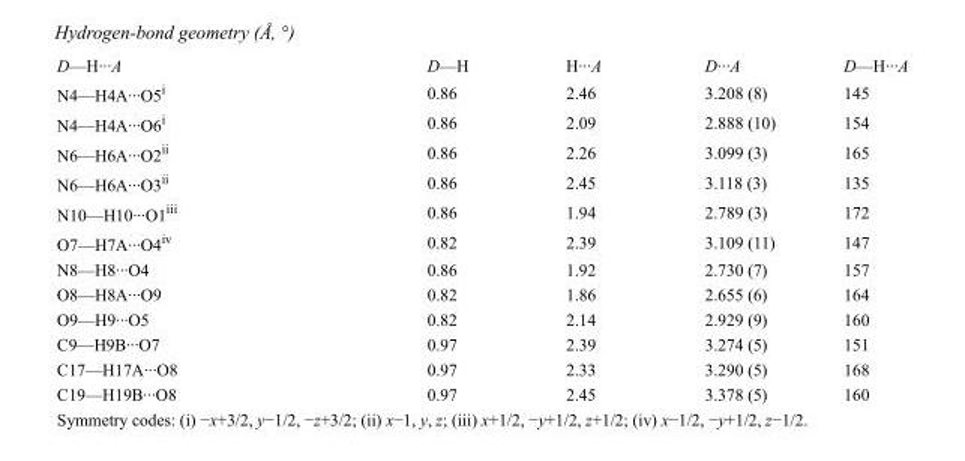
<table><tbody><tr><td>D—H···A</td><td>D—H</td><td>H···A</td><td>D···A</td><td>D—H···A</td></tr><tr><td>N4—H4A···O5<sup>i</sup></td><td>0.86</td><td>2.46</td><td>3.208 (8)</td><td>145</td></tr><tr><td>N4—H4A···O6<sup>i</sup></td><td>0.86</td><td>2.09</td><td>2.888 (10)</td><td>154</td></tr><tr><td>N6—H6A···O2<sup>ii</sup></td><td>0.86</td><td>2.26</td><td>3.099 (3)</td><td>165</td></tr><tr><td>N6—H6A···O3<sup>ii</sup></td><td>0.86</td><td>2.45</td><td>3.118 (3)</td><td>135</td></tr><tr><td>N10—H10···O1<sup>iii</sup></td><td>0.86</td><td>1.94</td><td>2.789 (3)</td><td>172</td></tr><tr><td>O7—H7A···O4<sup>iv</sup></td><td>0.82</td><td>2.39</td><td>3.109 (11)</td><td>147</td></tr><tr><td>N8—H8···O4</td><td>0.86</td><td>1.92</td><td>2.730 (7)</td><td>157</td></tr><tr><td>O8—H8A···O9</td><td>0.82</td><td>1.86</td><td>2.655 (6)</td><td>164</td></tr><tr><td>O9—H9···O5</td><td>0.82</td><td>2.14</td><td>2.929 (9)</td><td>160</td></tr><tr><td>C9—H9B···O7</td><td>0.97</td><td>2.39</td><td>3.274 (5)</td><td>151</td></tr><tr><td>C17—H17A···O8</td><td>0.97</td><td>2.33</td><td>3.290 (5)</td><td>168</td></tr><tr><td>C19—H19B···O8</td><td>0.97</td><td>2.45</td><td>3.378 (5)</td><td>160</td></tr></tbody></table>